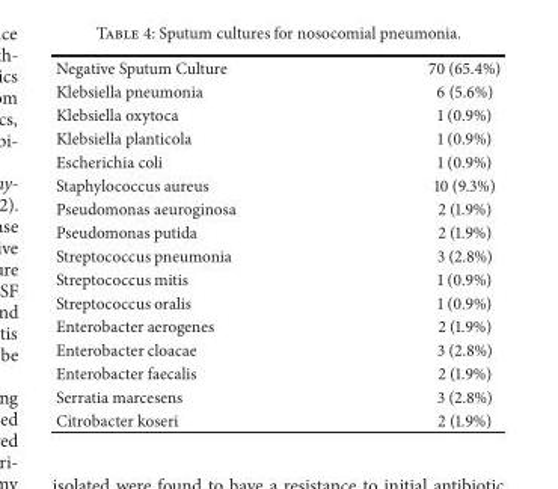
<table><tbody><tr><td>Negative Sputum Culture</td><td>70 (65.4%)</td></tr><tr><td>Klebsiella pneumonia</td><td>6 (5.6%)</td></tr><tr><td>Klebsiella oxytoca</td><td>1 (0.9%)</td></tr><tr><td>Klebsiella planticola</td><td>1 (0.9%)</td></tr><tr><td>Escherichia coli</td><td>1 (0.9%)</td></tr><tr><td>Staphylococcus aureus</td><td>10 (9.3%)</td></tr><tr><td>Pseudomonas aeuroginosa</td><td>2 (1.9%)</td></tr><tr><td>Pseudomonas putida</td><td>2 (1.9%)</td></tr><tr><td>Streptococcus pneumonia</td><td>3 (2.8%)</td></tr><tr><td>Streptococcus mitis</td><td>1 (0.9%)</td></tr><tr><td>Streptococcus oralis</td><td>1 (0.9%)</td></tr><tr><td>Enterobacter aerogenes</td><td>2 (1.9%)</td></tr><tr><td>Enterobacter cloacae</td><td>3 (2.8%)</td></tr><tr><td>Enterobacter faecalis</td><td>2 (1.9%)</td></tr><tr><td>Serratia marcesens</td><td>3 (2.8%)</td></tr><tr><td>Citrobacter koseri</td><td>2 (1.9%)</td></tr></tbody></table>